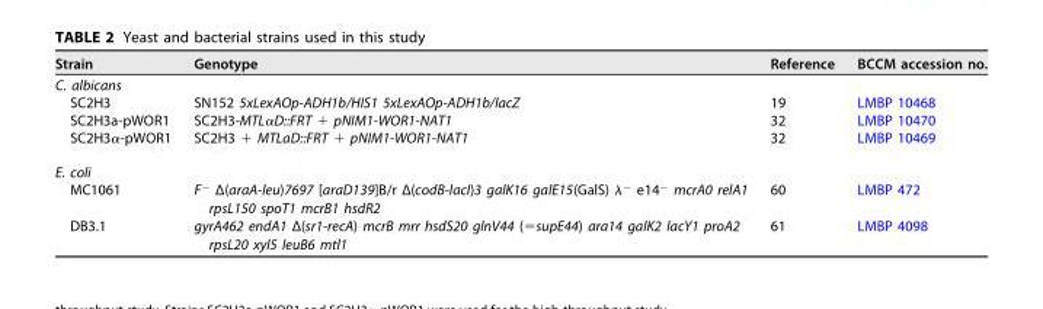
<table><thead><tr><td>Strain</td><td>Genotype</td><td>Reference</td><td>BCCM accession no.</td></tr></thead><tbody><tr><td colspan="4">C. albicans</td></tr><tr><td>SC2H3</td><td>SN152 5xLexAOp-ADH1b/HIS1 5xLexAOp-ADH1b/lacZ</td><td>19</td><td>LMBP 10468</td></tr><tr><td>SC2H3a-pWOR1</td><td>SC2H3-MTLαD::FRT + pNIM1-WOR1-NAT1</td><td>32</td><td>LMBP 10470</td></tr><tr><td>SC2H3α-pWOR1</td><td>SC2H3 + MTLaD::FRT + pNIM1-WOR1-NAT1</td><td>32</td><td>LMBP 10469</td></tr><tr><td colspan="4">E. coli</td></tr><tr><td>MC1061</td><td>F<sup>−</sup> Δ(araA-leu)7697 [araD139]B/r Δ(codB-lacI)3 galK16 galE15(GalS) λ<sup>−</sup> e14<sup>−</sup> mcrA0 relA1 rpsL150 spoT1 mcrB1 hsdR2</td><td>60</td><td>LMBP 472</td></tr><tr><td>DB3.1</td><td>gyrA462 endA1 Δ(sr1-recA) mcrB mrr hsdS20 glnV44 (=supE44) ara14 galK2 lacY1 proA2 rpsL20 xyl5 leuB6 mtl1</td><td>61</td><td>LMBP 4098</td></tr></tbody></table>